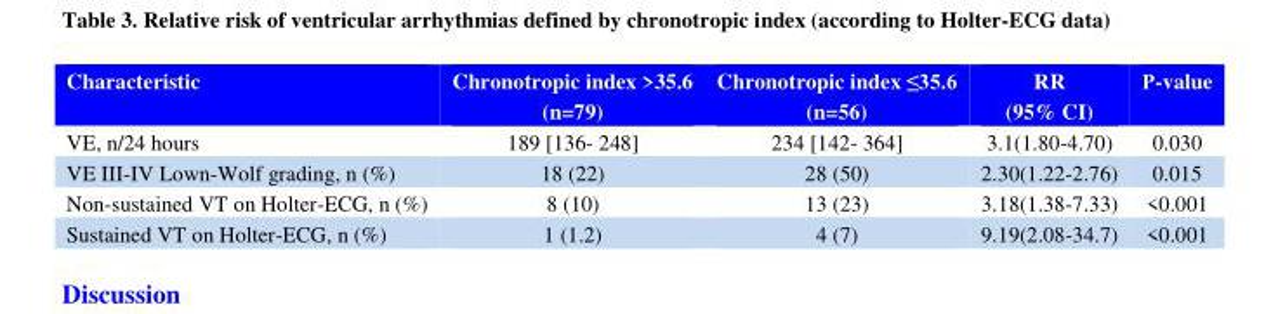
<table><thead><tr><td>Characteristic</td><td>Chronotropic index &gt;35.6 (n=79)</td><td>Chronotropic index ≤35.6 (n=56)</td><td>RR (95% CI)</td><td>Р-value</td></tr></thead><tbody><tr><td>VE, n/24 hours</td><td>189 [136- 248]</td><td>234 [142- 364]</td><td>3.1(1.80-4.70)</td><td>0.030</td></tr><tr><td>VE III-IV Lown-Wolf grading, n (%)</td><td>18 (22)</td><td>28 (50)</td><td>2.30(1.22-2.76)</td><td>0.015</td></tr><tr><td>Non-sustained VT on Holter-ECG, n (%)</td><td>8 (10)</td><td>13 (23)</td><td>3.18(1.38-7.33)</td><td>&lt;0.001</td></tr><tr><td>Sustained VT on Holter-ECG, n (%)</td><td>1 (1.2)</td><td>4 (7)</td><td>9.19(2.08-34.7)</td><td>&lt;0.001</td></tr></tbody></table>